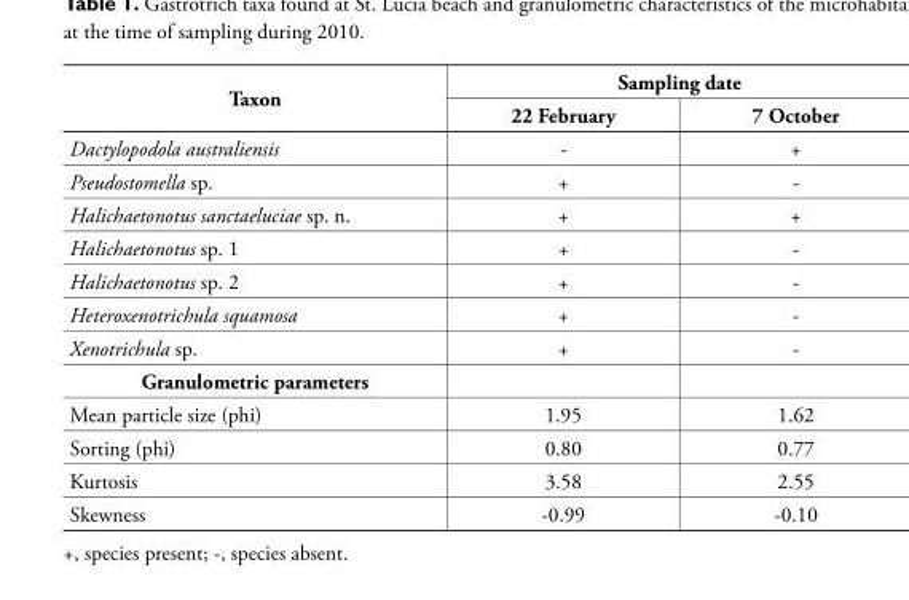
<table><tbody><tr><td rowspan="2">Taxon</td><td colspan="2">Sampling date</td></tr><tr><td>22 February</td><td>7 October</td></tr><tr><td>Dactylopodola australiensis</td><td>-</td><td>+</td></tr><tr><td>Pseudostomella sp.</td><td>+</td><td>-</td></tr><tr><td>Halichaetonotus sanctaeluciae sp. n.</td><td>+</td><td>+</td></tr><tr><td>Halichaetonotus sp. 1</td><td>+</td><td>-</td></tr><tr><td>Halichaetonotus sp. 2</td><td>+</td><td>-</td></tr><tr><td>Heteroxenotrichula squamosa</td><td>+</td><td>-</td></tr><tr><td>Xenotrichula sp.</td><td>+</td><td>-</td></tr><tr><td colspan="3">Granulometric parameters</td></tr><tr><td>Mean particle size (phi)</td><td>1.95</td><td>1.62</td></tr><tr><td>Sorting (phi)</td><td>0.80</td><td>0.77</td></tr><tr><td>Kurtosis</td><td>3.58</td><td>2.55</td></tr><tr><td>Skewness</td><td>-0.99</td><td>-0.10</td></tr></tbody></table>